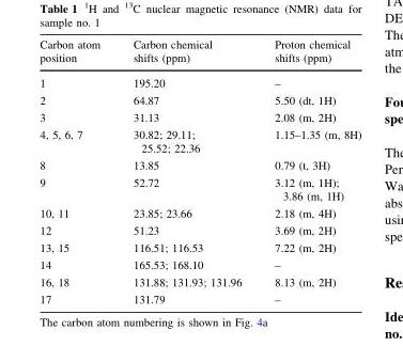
<table><thead><tr><td>Carbon atom position</td><td>Carbon chemical shifts (ppm)</td><td>Proton chemical shifts (ppm)</td></tr></thead><tbody><tr><td>1</td><td>195.20</td><td>–</td></tr><tr><td>2</td><td>64.87</td><td>5.50 (dt, 1H)</td></tr><tr><td>3</td><td>31.13</td><td>2.08 (m, 2H)</td></tr><tr><td>4, 5, 6, 7</td><td>30.82; 29.11; 25.52; 22.36</td><td>1.15–1.35 (m, 8H)</td></tr><tr><td>8</td><td>13.85</td><td>0.79 (t, 3H)</td></tr><tr><td>9</td><td>52.72</td><td>3.12 (m, 1H); 3.86 (m, 1H)</td></tr><tr><td>10, 11</td><td>23.85; 23.66</td><td>2.18 (m, 4H)</td></tr><tr><td>12</td><td>51.23</td><td>3.69 (m, 2H)</td></tr><tr><td>13, 15</td><td>116.51; 116.53</td><td>7.22 (m, 2H)</td></tr><tr><td>14</td><td>165.53; 168.10</td><td>–</td></tr><tr><td>16, 18</td><td>131.88; 131.93; 131.96</td><td>8.13 (m, 2H)</td></tr><tr><td>17</td><td>131.79</td><td>–</td></tr></tbody></table>